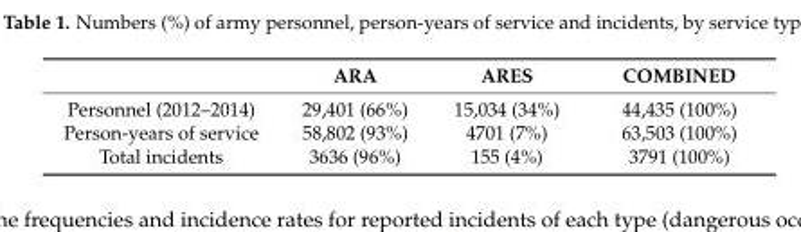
<table><thead><tr><td></td><td>ARA</td><td>ARES</td><td>COMBINED</td></tr></thead><tbody><tr><td>Personnel (2012–2014)</td><td>29,401 (66%)</td><td>15,034 (34%)</td><td>44,435 (100%)</td></tr><tr><td>Person-years of service</td><td>58,802 (93%)</td><td>4701 (7%)</td><td>63,503 (100%)</td></tr><tr><td>Total incidents</td><td>3636 (96%)</td><td>155 (4%)</td><td>3791 (100%)</td></tr></tbody></table>